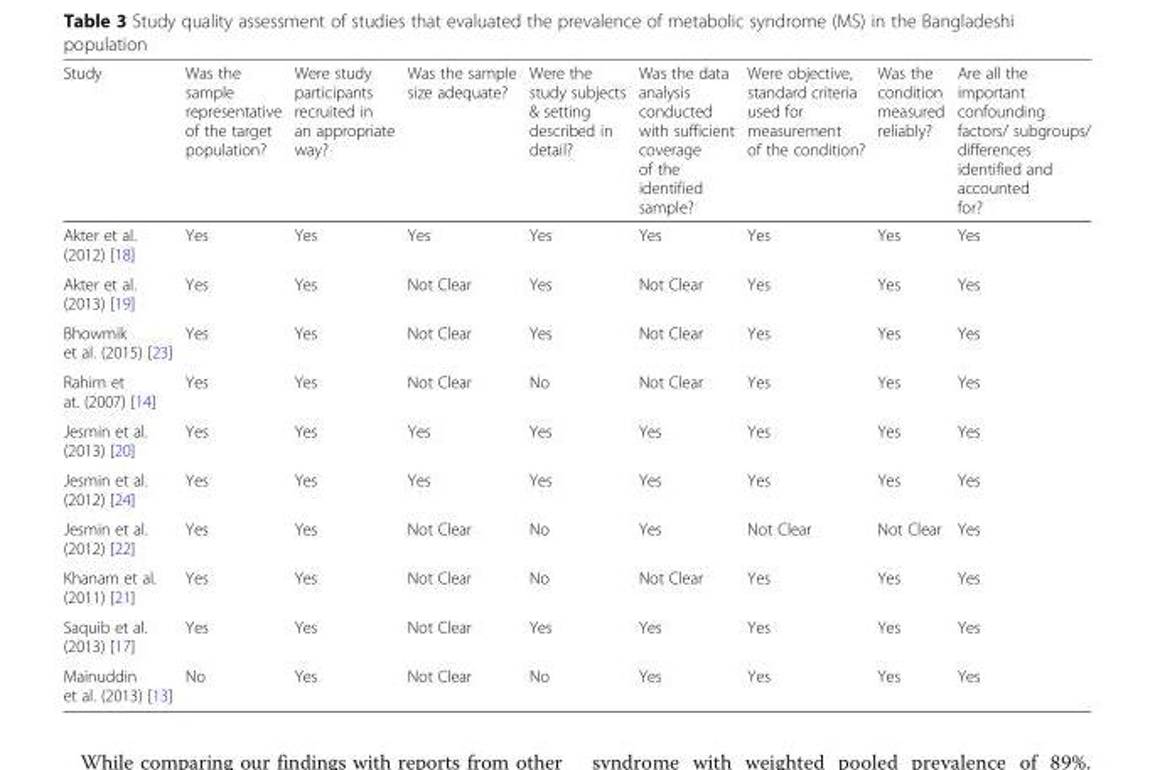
<table><thead><tr><td>Study</td><td>Was the sample representative of the target population?</td><td>Were study participants recruited in an appropriate way?</td><td>Was the sample size adequate?</td><td>Were the study subjects &amp; setting described in detail?</td><td>Was the data analysis conducted with sufficient coverage of the identified sample?</td><td>Were objective, standard criteria used for measurement of the condition?</td><td>Was the condition measured reliably?</td><td>Are all the important confounding factors/ subgroups/ differences identified and accounted for?</td></tr></thead><tbody><tr><td>Akter et al. (2012) [18]</td><td>Yes</td><td>Yes</td><td>Yes</td><td>Yes</td><td>Yes</td><td>Yes</td><td>Yes</td><td>Yes</td></tr><tr><td>Akter et al. (2013) [19]</td><td>Yes</td><td>Yes</td><td>Not Clear</td><td>Yes</td><td>Not Clear</td><td>Yes</td><td>Yes</td><td>Yes</td></tr><tr><td>Bhowmik et al. (2015) [23]</td><td>Yes</td><td>Yes</td><td>Not Clear</td><td>Yes</td><td>Not Clear</td><td>Yes</td><td>Yes</td><td>Yes</td></tr><tr><td>Rahim et at. (2007) [14]</td><td>Yes</td><td>Yes</td><td>Not Clear</td><td>No</td><td>Not Clear</td><td>Yes</td><td>Yes</td><td>Yes</td></tr><tr><td>Jesmin et al. (2013) [20]</td><td>Yes</td><td>Yes</td><td>Yes</td><td>Yes</td><td>Yes</td><td>Yes</td><td>Yes</td><td>Yes</td></tr><tr><td>Jesmin et al. (2012) [24]</td><td>Yes</td><td>Yes</td><td>Yes</td><td>Yes</td><td>Yes</td><td>Yes</td><td>Yes</td><td>Yes</td></tr><tr><td>Jesmin et al. (2012) [22]</td><td>Yes</td><td>Yes</td><td>Not Clear</td><td>No</td><td>Yes</td><td>Not Clear</td><td>Not Clear</td><td>Yes</td></tr><tr><td>Khanam et al. (2011) [21]</td><td>Yes</td><td>Yes</td><td>Not Clear</td><td>No</td><td>Not Clear</td><td>Yes</td><td>Yes</td><td>Yes</td></tr><tr><td>Saquib et al. (2013) [17]</td><td>Yes</td><td>Yes</td><td>Not Clear</td><td>Yes</td><td>Yes</td><td>Yes</td><td>Yes</td><td>Yes</td></tr><tr><td>Mainuddin et al. (2013) [13]</td><td>No</td><td>Yes</td><td>Not Clear</td><td>No</td><td>Yes</td><td>Yes</td><td>Yes</td><td>Yes</td></tr></tbody></table>